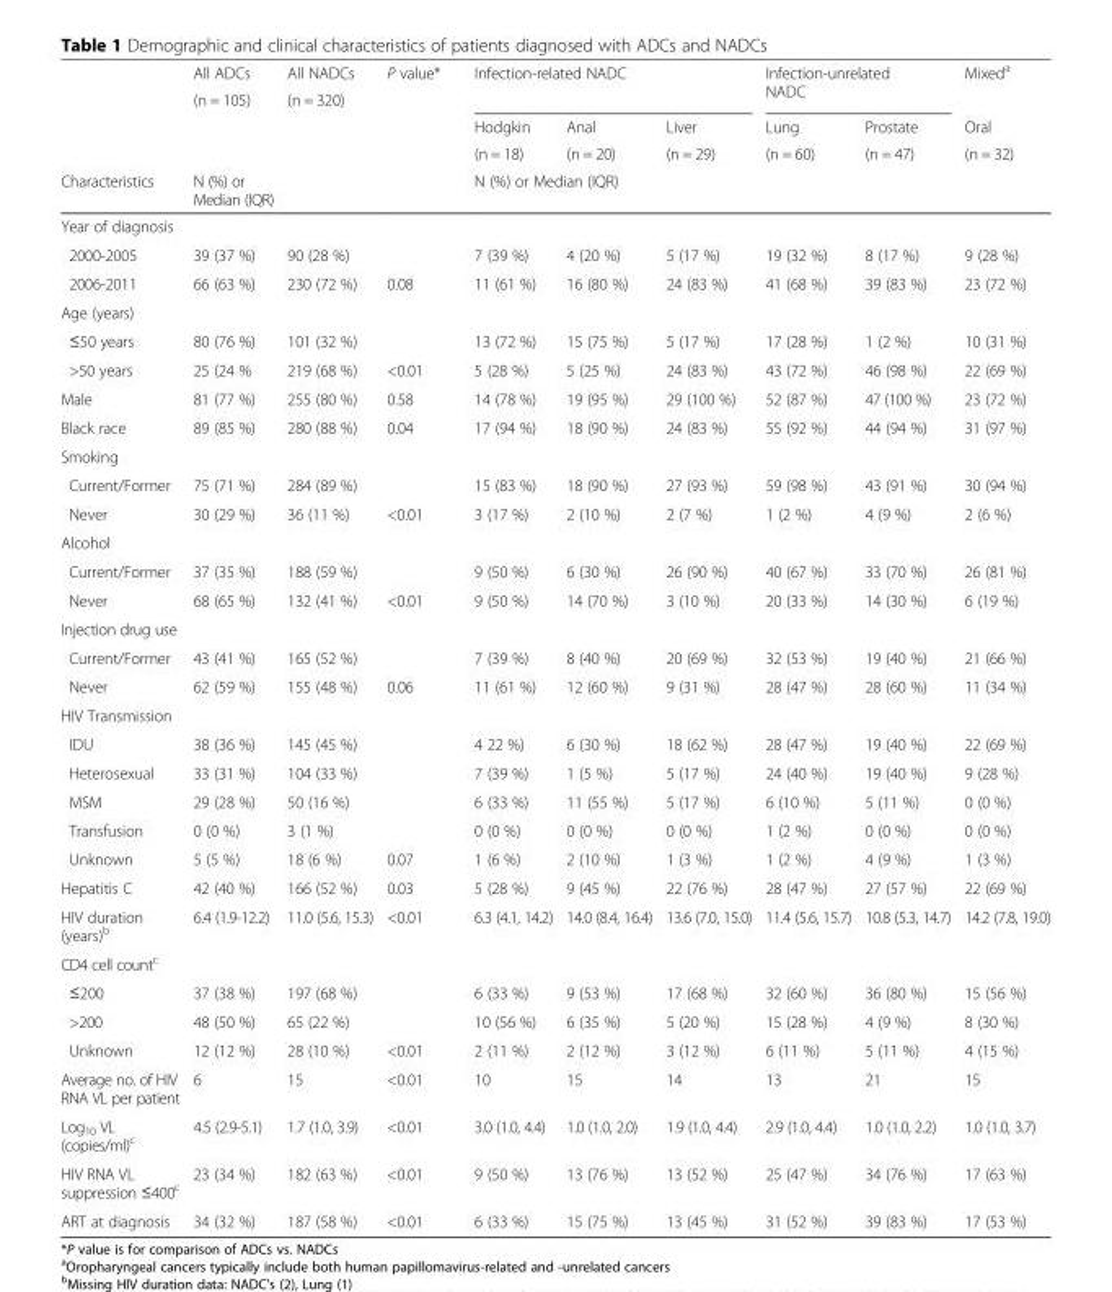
<table><thead><tr><td rowspan="5">Characteristics</td><td rowspan="5">All ADCs (n = 105) N (%) or Median (IQR)</td><td rowspan="5">All NADCs (n = 320)</td><td rowspan="5">P value*</td><td rowspan="2" colspan="3">Infection-related NADC</td><td rowspan="2" colspan="2">Infection-unrelated NADC</td><td rowspan="4">Mixed<sup>a</sup> Oral (n = 32)</td></tr><tr></tr><tr><td rowspan="2">Hodgkin (n = 18)</td><td rowspan="2">Anal (n = 20)</td><td rowspan="2">Liver (n = 29)</td><td rowspan="2">Lung (n = 60)</td><td rowspan="2">Prostate (n = 47)</td></tr><tr></tr><tr><td colspan="6">N (%) or Median (IQR)</td></tr></thead><tbody><tr><td colspan="10">Year of diagnosis</td></tr><tr><td>2000-2005</td><td>39 (37 %)</td><td>90 (28 %)</td><td></td><td>7 (39 %)</td><td>4 (20 %)</td><td>5 (17 %)</td><td>19 (32 %)</td><td>8 (17 %)</td><td>9 (28 %)</td></tr><tr><td>2006-2011</td><td>66 (63 %)</td><td>230 (72 %)</td><td>0.08</td><td>11 (61 %)</td><td>16 (80 %)</td><td>24 (83 %)</td><td>41 (68 %)</td><td>39 (83 %)</td><td>23 (72 %)</td></tr><tr><td colspan="10">Age (years)</td></tr><tr><td>≤50 years</td><td>80 (76 %)</td><td>101 (32 %)</td><td></td><td>13 (72 %)</td><td>15 (75 %)</td><td>5 (17 %)</td><td>17 (28 %)</td><td>1 (2 %)</td><td>10 (31 %)</td></tr><tr><td>&gt;50 years</td><td>25 (24 %</td><td>219 (68 %)</td><td>&lt;0.01</td><td>5 (28 %)</td><td>5 (25 %)</td><td>24 (83 %)</td><td>43 (72 %)</td><td>46 (98 %)</td><td>22 (69 %)</td></tr><tr><td>Male</td><td>81 (77 %)</td><td>255 (80 %)</td><td>0.58</td><td>14 (78 %)</td><td>19 (95 %)</td><td>29 (100 %)</td><td>52 (87 %)</td><td>47 (100 %)</td><td>23 (72 %)</td></tr><tr><td>Black race</td><td>89 (85 %)</td><td>280 (88 %)</td><td>0.04</td><td>17 (94 %)</td><td>18 (90 %)</td><td>24 (83 %)</td><td>55 (92 %)</td><td>44 (94 %)</td><td>31 (97 %)</td></tr><tr><td colspan="10">Smoking</td></tr><tr><td>Current/Former</td><td>75 (71 %)</td><td>284 (89 %)</td><td></td><td>15 (83 %)</td><td>18 (90 %)</td><td>27 (93 %)</td><td>59 (98 %)</td><td>43 (91 %)</td><td>30 (94 %)</td></tr><tr><td>Never</td><td>30 (29 %)</td><td>36 (11 %)</td><td>&lt;0.01</td><td>3 (17 %)</td><td>2 (10 %)</td><td>2 (7 %)</td><td>1 (2 %)</td><td>4 (9 %)</td><td>2 (6 %)</td></tr><tr><td colspan="10">Alcohol</td></tr><tr><td>Current/Former</td><td>37 (35 %)</td><td>188 (59 %)</td><td></td><td>9 (50 %)</td><td>6 (30 %)</td><td>26 (90 %)</td><td>40 (67 %)</td><td>33 (70 %)</td><td>26 (81 %)</td></tr><tr><td>Never</td><td>68 (65 %)</td><td>132 (41 %)</td><td>&lt;0.01</td><td>9 (50 %)</td><td>14 (70 %)</td><td>3 (10 %)</td><td>20 (33 %)</td><td>14 (30 %)</td><td>6 (19 %)</td></tr><tr><td colspan="10">Injection drug use</td></tr><tr><td>Current/Former</td><td>43 (41 %)</td><td>165 (52 %)</td><td></td><td>7 (39 %)</td><td>8 (40 %)</td><td>20 (69 %)</td><td>32 (53 %)</td><td>19 (40 %)</td><td>21 (66 %)</td></tr><tr><td>Never</td><td>62 (59 %)</td><td>155 (48 %)</td><td>0.06</td><td>11 (61 %)</td><td>12 (60 %)</td><td>9 (31 %)</td><td>28 (47 %)</td><td>28 (60 %)</td><td>11 (34 %)</td></tr><tr><td colspan="10">HIV Transmission</td></tr><tr><td>IDU</td><td>38 (36 %)</td><td>145 (45 %)</td><td></td><td>4 22 %)</td><td>6 (30 %)</td><td>18 (62 %)</td><td>28 (47 %)</td><td>19 (40 %)</td><td>22 (69 %)</td></tr><tr><td>Heterosexual</td><td>33 (31 %)</td><td>104 (33 %)</td><td></td><td>7 (39 %)</td><td>1 (5 %)</td><td>5 (17 %)</td><td>24 (40 %)</td><td>19 (40 %)</td><td>9 (28 %)</td></tr><tr><td>MSM</td><td>29 (28 %)</td><td>50 (16 %)</td><td></td><td>6 (33 %)</td><td>11 (55 %)</td><td>5 (17 %)</td><td>6 (10 %)</td><td>5 (11 %)</td><td>0 (0 %)</td></tr><tr><td>Transfusion</td><td>0 (0 %)</td><td>3 (1 %)</td><td></td><td>0 (0 %)</td><td>0 (0 %)</td><td>0 (0 %)</td><td>1 (2 %)</td><td>0 (0 %)</td><td>0 (0 %)</td></tr><tr><td>Unknown</td><td>5 (5 %)</td><td>18 (6 %)</td><td>0.07</td><td>1 (6 %)</td><td>2 (10 %)</td><td>1 (3 %)</td><td>1 (2 %)</td><td>4 (9 %)</td><td>1 (3 %)</td></tr><tr><td>Hepatitis C</td><td>42 (40 %)</td><td>166 (52 %)</td><td>0.03</td><td>5 (28 %)</td><td>9 (45 %)</td><td>22 (76 %)</td><td>28 (47 %)</td><td>27 (57 %)</td><td>22 (69 %)</td></tr><tr><td>HIV duration (years)<sup>b</sup></td><td>6.4 (1.9-12.2)</td><td>11.0 (5.6, 15.3)</td><td>&lt;0.01</td><td>6.3 (4.1, 14.2)</td><td>14.0 (8.4, 16.4)</td><td>13.6 (7.0, 15.0)</td><td>11.4 (5.6, 15.7)</td><td>10.8 (5.3, 14.7)</td><td>14.2 (7.8, 19.0)</td></tr><tr><td colspan="10">CD4 cell count<sup>c</sup></td></tr><tr><td>≤200</td><td>37 (38 %)</td><td>197 (68 %)</td><td></td><td>6 (33 %)</td><td>9 (53 %)</td><td>17 (68 %)</td><td>32 (60 %)</td><td>36 (80 %)</td><td>15 (56 %)</td></tr><tr><td>&gt;200</td><td>48 (50 %)</td><td>65 (22 %)</td><td></td><td>10 (56 %)</td><td>6 (35 %)</td><td>5 (20 %)</td><td>15 (28 %)</td><td>4 (9 %)</td><td>8 (30 %)</td></tr><tr><td>Unknown</td><td>12 (12 %)</td><td>28 (10 %)</td><td>&lt;0.01</td><td>2 (11 %)</td><td>2 (12 %)</td><td>3 (12 %)</td><td>6 (11 %)</td><td>5 (11 %)</td><td>4 (15 %)</td></tr><tr><td>Average no. of HIV RNA VL per patient</td><td>6</td><td>15</td><td>&lt;0.01</td><td>10</td><td>15</td><td>14</td><td>13</td><td>21</td><td>15</td></tr><tr><td>Log<sub>10</sub> VL (copies/ml)<sup>c</sup></td><td>4.5 (2.9-5.1)</td><td>1.7 (1.0, 3.9)</td><td>&lt;0.01</td><td>3.0 (1.0, 4.4)</td><td>1.0 (1.0, 2.0)</td><td>1.9 (1.0, 4.4)</td><td>2.9 (1.0, 4.4)</td><td>1.0 (1.0, 2.2)</td><td>1.0 (1.0, 3.7)</td></tr><tr><td>HIV RNA VL suppression ≤400<sup>c</sup></td><td>23 (34 %)</td><td>182 (63 %)</td><td>&lt;0.01</td><td>9 (50 %)</td><td>13 (76 %)</td><td>13 (52 %)</td><td>25 (47 %)</td><td>34 (76 %)</td><td>17 (63 %)</td></tr><tr><td>ART at diagnosis</td><td>34 (32 %)</td><td>187 (58 %)</td><td>&lt;0.01</td><td>6 (33 %)</td><td>15 (75 %)</td><td>13 (45 %)</td><td>31 (52 %)</td><td>39 (83 %)</td><td>17 (53 %)</td></tr></tbody></table>